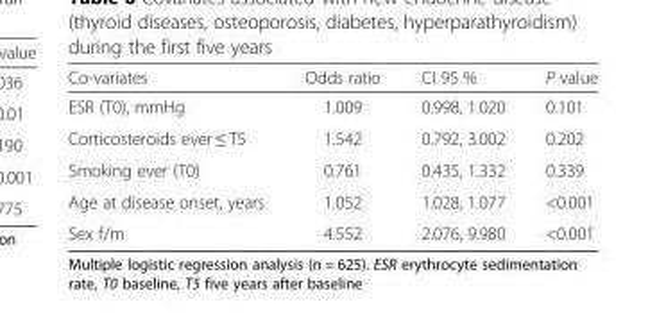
<table><thead><tr><td>Co-variates</td><td>Odds ratio</td><td>CI 95 %</td><td>P value</td></tr></thead><tbody><tr><td>ESR (T0), mmHg</td><td>1.009</td><td>0.998, 1.020</td><td>0.101</td></tr><tr><td>Corticosteroids ever ≤ T5</td><td>1.542</td><td>0.792, 3.002</td><td>0.202</td></tr><tr><td>Smoking ever (T0)</td><td>0.761</td><td>0.435, 1.332</td><td>0.339</td></tr><tr><td>Age at disease onset, years</td><td>1.052</td><td>1.028, 1.077</td><td>&lt;0.001</td></tr><tr><td>Sex f/m</td><td>4.552</td><td>2.076, 9.980</td><td>&lt;0.001</td></tr></tbody></table>